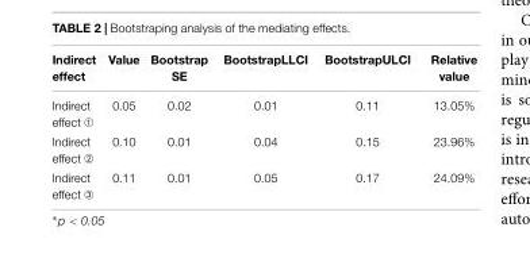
<table><thead><tr><td>Indirect effect</td><td>Value</td><td>Bootstrap SE</td><td>BootstrapLLCI</td><td>BootstrapULCI</td><td>Relative value</td></tr></thead><tbody><tr><td>Indirect effect</td><td>0.05</td><td>0.02</td><td>0.01</td><td>0.11</td><td>13.05%</td></tr><tr><td>Indirect effect</td><td>0.10</td><td>0.01</td><td>0.04</td><td>0.15</td><td>23.96%</td></tr><tr><td>Indirect effect</td><td>0.11</td><td>0.01</td><td>0.05</td><td>0.17</td><td>24.09%</td></tr></tbody></table>